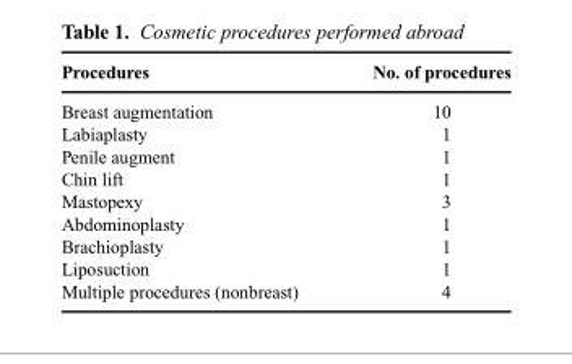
<table><thead><tr><td>Procedures</td><td>No. of procedures</td></tr></thead><tbody><tr><td>Breast augmentation</td><td>10</td></tr><tr><td>Labiaplasty</td><td>1</td></tr><tr><td>Penile augment</td><td>1</td></tr><tr><td>Chin lift</td><td>1</td></tr><tr><td>Mastopexy</td><td>3</td></tr><tr><td>Abdominoplasty</td><td>1</td></tr><tr><td>Brachioplasty</td><td>1</td></tr><tr><td>Liposuction</td><td>1</td></tr><tr><td>Multiple procedures (nonbreast)</td><td>4</td></tr></tbody></table>